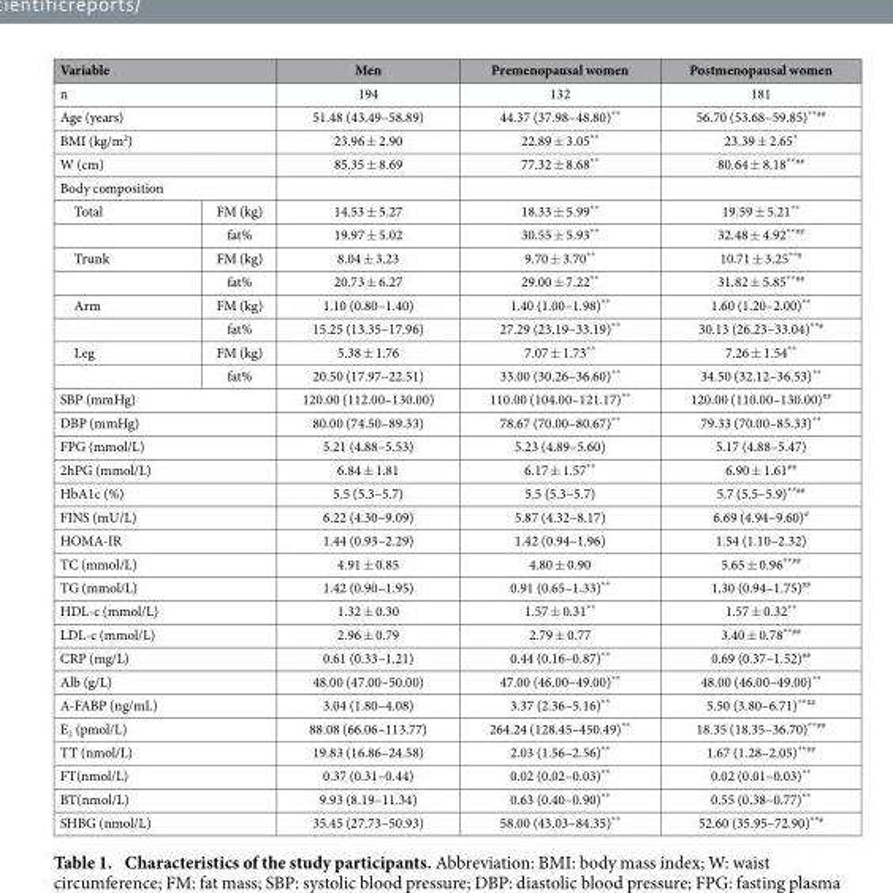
<table><thead><tr><td colspan="2">Variable</td><td>Men</td><td>Premenopausal women</td><td>Postmenopausal women</td></tr></thead><tbody><tr><td colspan="2">n</td><td>194</td><td>132</td><td>181</td></tr><tr><td colspan="2">Age (years)</td><td>51.48 (43.49–58.89)</td><td>44.37 (37.98–48.80)**</td><td>56.70 (53.68–59.85)<sup>**##</sup></td></tr><tr><td colspan="2">BMI (kg/m<sup>2</sup>)</td><td>23.96 ± 2.90</td><td>22.89 ± 3.05**</td><td>23.39 ± 2.65*</td></tr><tr><td colspan="2">W (cm)</td><td>85.35 ± 8.69</td><td>77.32 ± 8.68**</td><td>80.64 ± 8.18<sup>**##</sup></td></tr><tr><td colspan="5">Body composition</td></tr><tr><td rowspan="2">Total</td><td>FM (kg)</td><td>14.53 ± 5.27</td><td>18.33 ± 5.99**</td><td>19.59 ± 5.21**</td></tr><tr><td>fat%</td><td>19.97 ± 5.02</td><td>30.55 ± 5.93**</td><td>32.48 ± 4.92<sup>**##</sup></td></tr><tr><td rowspan="2">Trunk</td><td>FM (kg)</td><td>8.04 ± 3.23</td><td>9.70 ± 3.70**</td><td>10.71 ± 3.25<sup>**#</sup></td></tr><tr><td>fat%</td><td>20.73 ± 6.27</td><td>29.00 ± 7.22**</td><td>31.82 ± 5.85<sup>**##</sup></td></tr><tr><td rowspan="2">Arm</td><td>FM (kg)</td><td>1.10 (0.80–1.40)</td><td>1.40 (1.00–1.98)**</td><td>1.60 (1.20–2.00)**</td></tr><tr><td>fat%</td><td>15.25 (13.35–17.96)</td><td>27.29 (23.19–33.19)**</td><td>30.13 (26.23–33.04)<sup>**#</sup></td></tr><tr><td rowspan="2">Leg</td><td>FM (kg)</td><td>5.38 ± 1.76</td><td>7.07 ± 1.73**</td><td>7.26 ± 1.54**</td></tr><tr><td>fat%</td><td>20.50 (17.97–22.51)</td><td>33.00 (30.26–36.60)**</td><td>34.50 (32.12–36.53)**</td></tr><tr><td colspan="2">SBP (mmHg)</td><td>120.00 (112.00–130.00)</td><td>110.00 (104.00–121.17)**</td><td>120.00 (110.00–130.00)<sup>##</sup></td></tr><tr><td colspan="2">DBP (mmHg)</td><td>80.00 (74.50–89.33)</td><td>78.67 (70.00–80.67)**</td><td>79.33 (70.00–85.33)**</td></tr><tr><td colspan="2">FPG (mmol/L)</td><td>5.21 (4.88–5.53)</td><td>5.23 (4.89–5.60)</td><td>5.17 (4.88–5.47)</td></tr><tr><td colspan="2">2hPG (mmol/L)</td><td>6.84 ± 1.81</td><td>6.17 ± 1.57**</td><td>6.90 ± 1.61<sup>##</sup></td></tr><tr><td colspan="2">HbA1c (%)</td><td>5.5 (5.3–5.7)</td><td>5.5 (5.3–5.7)</td><td>5.7 (5.5–5.9)<sup>**##</sup></td></tr><tr><td colspan="2">FINS (mU/L)</td><td>6.22 (4.30–9.09)</td><td>5.87 (4.32–8.17)</td><td>6.69 (4.94–9.60)<sup>#</sup></td></tr><tr><td colspan="2">HOMA-IR</td><td>1.44 (0.93–2.29)</td><td>1.42 (0.94–1.96)</td><td>1.54 (1.10–2.32)</td></tr><tr><td colspan="2">TC (mmol/L)</td><td>4.91 ± 0.85</td><td>4.80 ± 0.90</td><td>5.65 ± 0.96<sup>**##</sup></td></tr><tr><td colspan="2">TG (mmol/L)</td><td>1.42 (0.90–1.95)</td><td>0.91 (0.65–1.33)**</td><td>1.30 (0.94–1.75)<sup>##</sup></td></tr><tr><td colspan="2">HDL-c (mmol/L)</td><td>1.32 ± 0.30</td><td>1.57 ± 0.31**</td><td>1.57 ± 0.32**</td></tr><tr><td colspan="2">LDL-c (mmol/L)</td><td>2.96 ± 0.79</td><td>2.79 ± 0.77</td><td>3.40 ± 0.78<sup>**##</sup></td></tr><tr><td colspan="2">CRP (mg/L)</td><td>0.61 (0.33–1.21)</td><td>0.44 (0.16–0.87)**</td><td>0.69 (0.37–1.52)<sup>##</sup></td></tr><tr><td colspan="2">Alb (g/L)</td><td>48.00 (47.00–50.00)</td><td>47.00 (46.00–49.00)**</td><td>48.00 (46.00–49.00)**</td></tr><tr><td colspan="2">A-FABP (ng/mL)</td><td>3.04 (1.80–4.08)</td><td>3.37 (2.36–5.16)**</td><td>5.50 (3.80–6.71)<sup>**##</sup></td></tr><tr><td colspan="2">E<sub>2</sub> (pmol/L)</td><td>88.08 (66.06–113.77)</td><td>264.24 (128.45–450.49)**</td><td>18.35 (18.35–36.70)<sup>**##</sup></td></tr><tr><td colspan="2">TT (nmol/L)</td><td>19.83 (16.86–24.58)</td><td>2.03 (1.56–2.56)**</td><td>1.67 (1.28–2.05)<sup>**##</sup></td></tr><tr><td colspan="2">FT(nmol/L)</td><td>0.37 (0.31–0.44)</td><td>0.02 (0.02–0.03)**</td><td>0.02 (0.01–0.03)**</td></tr><tr><td colspan="2">BT(nmol/L)</td><td>9.93 (8.19–11.34)</td><td>0.63 (0.40–0.90)**</td><td>0.55 (0.38–0.77)**</td></tr><tr><td colspan="2">SHBG (nmol/L)</td><td>35.45 (27.73–50.93)</td><td>58.00 (43.03–84.35)**</td><td>52.60 (35.95–72.90)<sup>**#</sup></td></tr></tbody></table>